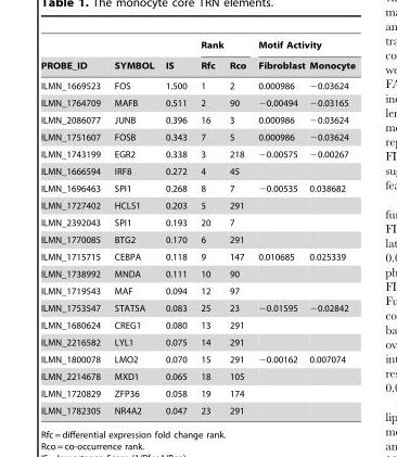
<table><thead><tr><td rowspan="2">PROBE_ID</td><td rowspan="2">SYMBOL</td><td rowspan="2">IS</td><td colspan="2">Rank</td><td colspan="2">Motif Activity</td></tr><tr><td>Rfc</td><td>Rco</td><td>Fibroblast</td><td>Monocyte</td></tr></thead><tbody><tr><td>ILMN_1669523</td><td>FOS</td><td>1.500</td><td>1</td><td>2</td><td>0.000986</td><td>−0.03624</td></tr><tr><td>ILMN_1764709</td><td>MAFB</td><td>0.511</td><td>2</td><td>90</td><td>−0.00494</td><td>−0.03165</td></tr><tr><td>ILMN_2086077</td><td>JUNB</td><td>0.396</td><td>16</td><td>3</td><td>0.000986</td><td>−0.03624</td></tr><tr><td>ILMN_1751607</td><td>FOSB</td><td>0.343</td><td>7</td><td>5</td><td>0.000986</td><td>−0.03624</td></tr><tr><td>ILMN_1743199</td><td>EGR2</td><td>0.338</td><td>3</td><td>218</td><td>−0.00575</td><td>−0.00267</td></tr><tr><td>ILMN_1666594</td><td>IRF8</td><td>0.272</td><td>4</td><td>45</td><td></td><td></td></tr><tr><td>ILMN_1696463</td><td>SPI1</td><td>0.268</td><td>8</td><td>7</td><td>−0.00535</td><td>0.038682</td></tr><tr><td>ILMN_1727402</td><td>HCLS1</td><td>0.203</td><td>5</td><td>291</td><td></td><td></td></tr><tr><td>ILMN_2392043</td><td>SPI1</td><td>0.193</td><td>20</td><td>7</td><td></td><td></td></tr><tr><td>ILMN_1770085</td><td>BTG2</td><td>0.170</td><td>6</td><td>291</td><td></td><td></td></tr><tr><td>ILMN_1715715</td><td>CEBPA</td><td>0.118</td><td>9</td><td>147</td><td>0.010685</td><td>0.025339</td></tr><tr><td>ILMN_1738992</td><td>MNDA</td><td>0.111</td><td>10</td><td>90</td><td></td><td></td></tr><tr><td>ILMN_1719543</td><td>MAF</td><td>0.094</td><td>12</td><td>97</td><td></td><td></td></tr><tr><td>ILMN_1753547</td><td>STAT5A</td><td>0.083</td><td>25</td><td>23</td><td>−0.01595</td><td>−0.02842</td></tr><tr><td>ILMN_1680624</td><td>CREG1</td><td>0.080</td><td>13</td><td>291</td><td></td><td></td></tr><tr><td>ILMN_2216582</td><td>LYL1</td><td>0.075</td><td>14</td><td>291</td><td></td><td></td></tr><tr><td>ILMN_1800078</td><td>LMO2</td><td>0.070</td><td>15</td><td>291</td><td>−0.00162</td><td>0.007074</td></tr><tr><td>ILMN_2214678</td><td>MXD1</td><td>0.065</td><td>18</td><td>105</td><td></td><td></td></tr><tr><td>ILMN_1720829</td><td>ZFP36</td><td>0.058</td><td>19</td><td>174</td><td></td><td></td></tr><tr><td>ILMN_1782305</td><td>NR4A2</td><td>0.047</td><td>23</td><td>291</td><td></td><td></td></tr></tbody></table>